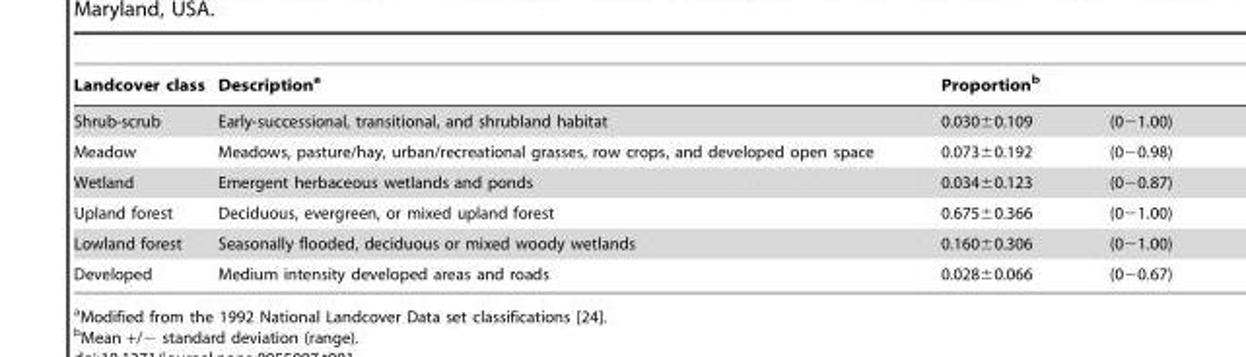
<table><thead><tr><td rowspan="2">Landcover class Shrub-scrub</td><td rowspan="2">Description<sup>a</sup> Early-successional, transitional, and shrubland habitat</td><td colspan="2">Proportion<sup>b</sup></td></tr><tr><td>0.030±0.109</td><td>(0−1.00)</td></tr></thead><tbody><tr><td>Meadow</td><td>Meadows, pasture/hay, urban/recreational grasses, row crops, and developed open space</td><td>0.073±0.192</td><td>(0−0.98)</td></tr><tr><td>Wetland</td><td>Emergent herbaceous wetlands and ponds</td><td>0.034±0.123</td><td>(0−0.87)</td></tr><tr><td>Upland forest</td><td>Deciduous, evergreen, or mixed upland forest</td><td>0.675±0.366</td><td>(0−1.00)</td></tr><tr><td>Lowland forest</td><td>Seasonally flooded, deciduous or mixed woody wetlands</td><td>0.160±0.306</td><td>(0−1.00)</td></tr><tr><td>Developed</td><td>Medium intensity developed areas and roads</td><td>0.028±0.066</td><td>(0−0.67)</td></tr></tbody></table>